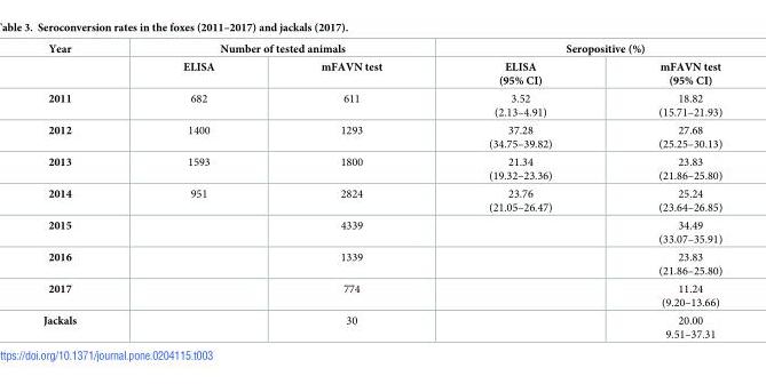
<table><thead><tr><td rowspan="2">Year</td><td colspan="2">Number of tested animals</td><td colspan="2">Seropositive (%)</td></tr><tr><td>ELISA</td><td>mFAVN test</td><td>ELISA (95% CI)</td><td>mFAVN test (95% CI)</td></tr></thead><tbody><tr><td>2011</td><td>682</td><td>611</td><td>3.52 (2.13–4.91)</td><td>18.82 (15.71–21.93)</td></tr><tr><td>2012</td><td>1400</td><td>1293</td><td>37.28 (34.75–39.82)</td><td>27.68 (25.25–30.13)</td></tr><tr><td>2013</td><td>1593</td><td>1800</td><td>21.34 (19.32–23.36)</td><td>23.83 (21.86–25.80)</td></tr><tr><td>2014</td><td>951</td><td>2824</td><td>23.76 (21.05–26.47)</td><td>25.24 (23.64–26.85)</td></tr><tr><td>2015</td><td></td><td>4339</td><td></td><td>34.49 (33.07–35.91)</td></tr><tr><td>2016</td><td></td><td>1339</td><td></td><td>23.83 (21.86–25.80)</td></tr><tr><td>2017</td><td></td><td>774</td><td></td><td>11.24 (9.20–13.66)</td></tr><tr><td>Jackals</td><td></td><td>30</td><td></td><td>20.00 9.51–37.31</td></tr></tbody></table>